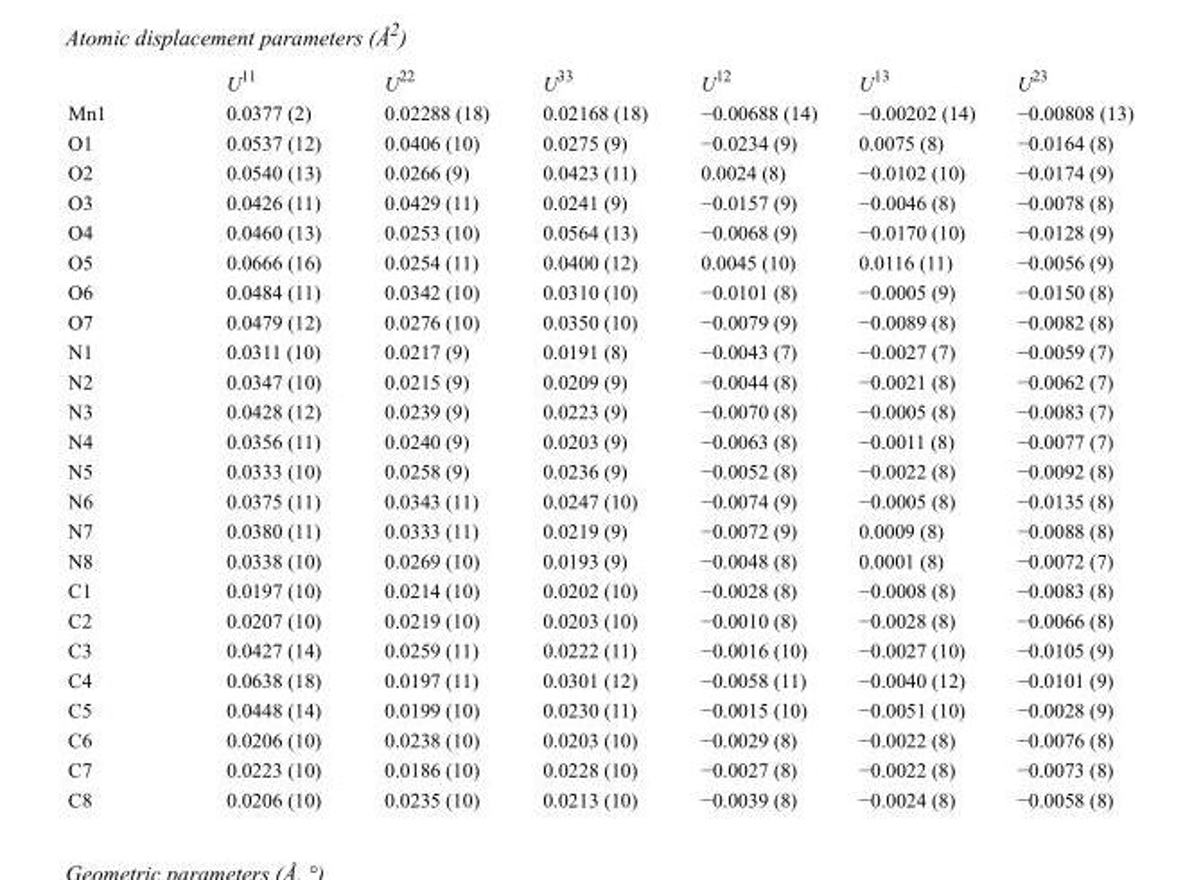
<table><thead><tr><td></td><td>U<sup>11</sup></td><td>U<sup>22</sup></td><td>U<sup>33</sup></td><td>U<sup>12</sup></td><td>U<sup>13</sup></td><td>U<sup>23</sup></td></tr></thead><tbody><tr><td>Mn1</td><td>0.0377 (2)</td><td>0.02288 (18)</td><td>0.02168 (18)</td><td>−0.00688 (14)</td><td>−0.00202 (14)</td><td>−0.00808 (13)</td></tr><tr><td>O1</td><td>0.0537 (12)</td><td>0.0406 (10)</td><td>0.0275 (9)</td><td>−0.0234 (9)</td><td>0.0075 (8)</td><td>−0.0164 (8)</td></tr><tr><td>O2</td><td>0.0540 (13)</td><td>0.0266 (9)</td><td>0.0423 (11)</td><td>0.0024 (8)</td><td>−0.0102 (10)</td><td>−0.0174 (9)</td></tr><tr><td>O3</td><td>0.0426 (11)</td><td>0.0429 (11)</td><td>0.0241 (9)</td><td>−0.0157 (9)</td><td>−0.0046 (8)</td><td>−0.0078 (8)</td></tr><tr><td>O4</td><td>0.0460 (13)</td><td>0.0253 (10)</td><td>0.0564 (13)</td><td>−0.0068 (9)</td><td>−0.0170 (10)</td><td>−0.0128 (9)</td></tr><tr><td>O5</td><td>0.0666 (16)</td><td>0.0254 (11)</td><td>0.0400 (12)</td><td>0.0045 (10)</td><td>0.0116 (11)</td><td>−0.0056 (9)</td></tr><tr><td>O6</td><td>0.0484 (11)</td><td>0.0342 (10)</td><td>0.0310 (10)</td><td>−0.0101 (8)</td><td>−0.0005 (9)</td><td>−0.0150 (8)</td></tr><tr><td>O7</td><td>0.0479 (12)</td><td>0.0276 (10)</td><td>0.0350 (10)</td><td>−0.0079 (9)</td><td>−0.0089 (8)</td><td>−0.0082 (8)</td></tr><tr><td>N1</td><td>0.0311 (10)</td><td>0.0217 (9)</td><td>0.0191 (8)</td><td>−0.0043 (7)</td><td>−0.0027 (7)</td><td>−0.0059 (7)</td></tr><tr><td>N2</td><td>0.0347 (10)</td><td>0.0215 (9)</td><td>0.0209 (9)</td><td>−0.0044 (8)</td><td>−0.0021 (8)</td><td>−0.0062 (7)</td></tr><tr><td>N3</td><td>0.0428 (12)</td><td>0.0239 (9)</td><td>0.0223 (9)</td><td>−0.0070 (8)</td><td>−0.0005 (8)</td><td>−0.0083 (7)</td></tr><tr><td>N4</td><td>0.0356 (11)</td><td>0.0240 (9)</td><td>0.0203 (9)</td><td>−0.0063 (8)</td><td>−0.0011 (8)</td><td>−0.0077 (7)</td></tr><tr><td>N5</td><td>0.0333 (10)</td><td>0.0258 (9)</td><td>0.0236 (9)</td><td>−0.0052 (8)</td><td>−0.0022 (8)</td><td>−0.0092 (8)</td></tr><tr><td>N6</td><td>0.0375 (11)</td><td>0.0343 (11)</td><td>0.0247 (10)</td><td>−0.0074 (9)</td><td>−0.0005 (8)</td><td>−0.0135 (8)</td></tr><tr><td>N7</td><td>0.0380 (11)</td><td>0.0333 (11)</td><td>0.0219 (9)</td><td>−0.0072 (9)</td><td>0.0009 (8)</td><td>−0.0088 (8)</td></tr><tr><td>N8</td><td>0.0338 (10)</td><td>0.0269 (10)</td><td>0.0193 (9)</td><td>−0.0048 (8)</td><td>0.0001 (8)</td><td>−0.0072 (7)</td></tr><tr><td>C1</td><td>0.0197 (10)</td><td>0.0214 (10)</td><td>0.0202 (10)</td><td>−0.0028 (8)</td><td>−0.0008 (8)</td><td>−0.0083 (8)</td></tr><tr><td>C2</td><td>0.0207 (10)</td><td>0.0219 (10)</td><td>0.0203 (10)</td><td>−0.0010 (8)</td><td>−0.0028 (8)</td><td>−0.0066 (8)</td></tr><tr><td>C3</td><td>0.0427 (14)</td><td>0.0259 (11)</td><td>0.0222 (11)</td><td>−0.0016 (10)</td><td>−0.0027 (10)</td><td>−0.0105 (9)</td></tr><tr><td>C4</td><td>0.0638 (18)</td><td>0.0197 (11)</td><td>0.0301 (12)</td><td>−0.0058 (11)</td><td>−0.0040 (12)</td><td>−0.0101 (9)</td></tr><tr><td>C5</td><td>0.0448 (14)</td><td>0.0199 (10)</td><td>0.0230 (11)</td><td>−0.0015 (10)</td><td>−0.0051 (10)</td><td>−0.0028 (9)</td></tr><tr><td>C6</td><td>0.0206 (10)</td><td>0.0238 (10)</td><td>0.0203 (10)</td><td>−0.0029 (8)</td><td>−0.0022 (8)</td><td>−0.0076 (8)</td></tr><tr><td>C7</td><td>0.0223 (10)</td><td>0.0186 (10)</td><td>0.0228 (10)</td><td>−0.0027 (8)</td><td>−0.0022 (8)</td><td>−0.0073 (8)</td></tr><tr><td>C8</td><td>0.0206 (10)</td><td>0.0235 (10)</td><td>0.0213 (10)</td><td>−0.0039 (8)</td><td>−0.0024 (8)</td><td>−0.0058 (8)</td></tr></tbody></table>